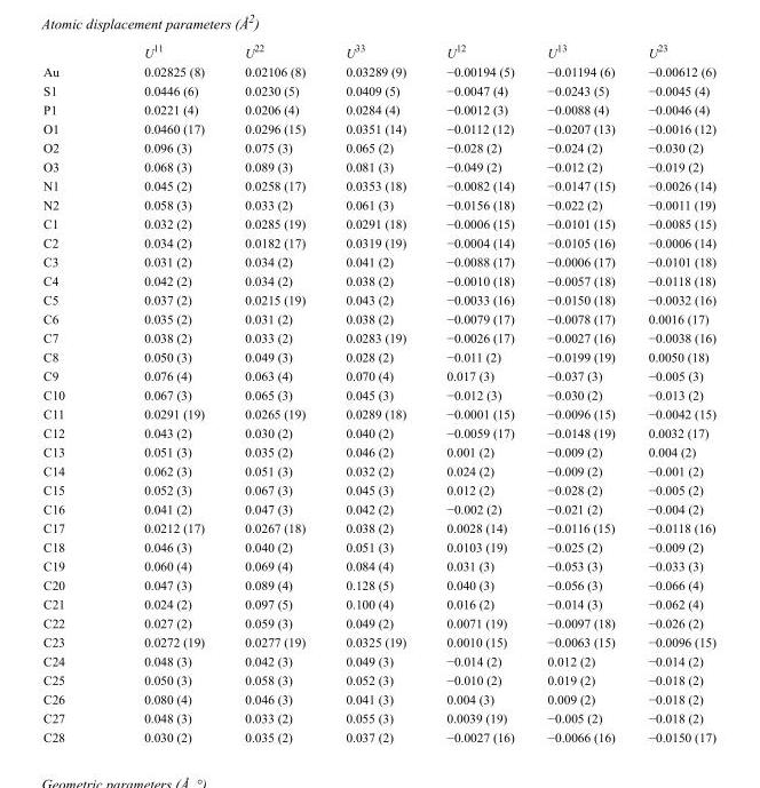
<table><thead><tr><td></td><td>U<sup>11</sup></td><td>U<sup>22</sup></td><td>U<sup>33</sup></td><td>U<sup>12</sup></td><td>U<sup>13</sup></td><td>U<sup>23</sup></td></tr></thead><tbody><tr><td>Au</td><td>0.02825 (8)</td><td>0.02106 (8)</td><td>0.03289 (9)</td><td>−0.00194 (5)</td><td>−0.01194 (6)</td><td>−0.00612 (6)</td></tr><tr><td>S1</td><td>0.0446 (6)</td><td>0.0230 (5)</td><td>0.0409 (5)</td><td>−0.0047 (4)</td><td>−0.0243 (5)</td><td>−0.0045 (4)</td></tr><tr><td>P1</td><td>0.0221 (4)</td><td>0.0206 (4)</td><td>0.0284 (4)</td><td>−0.0012 (3)</td><td>−0.0088 (4)</td><td>−0.0046 (4)</td></tr><tr><td>O1</td><td>0.0460 (17)</td><td>0.0296 (15)</td><td>0.0351 (14)</td><td>−0.0112 (12)</td><td>−0.0207 (13)</td><td>−0.0016 (12)</td></tr><tr><td>O2</td><td>0.096 (3)</td><td>0.075 (3)</td><td>0.065 (2)</td><td>−0.028 (2)</td><td>−0.024 (2)</td><td>−0.030 (2)</td></tr><tr><td>O3</td><td>0.068 (3)</td><td>0.089 (3)</td><td>0.081 (3)</td><td>−0.049 (2)</td><td>−0.012 (2)</td><td>−0.019 (2)</td></tr><tr><td>N1</td><td>0.045 (2)</td><td>0.0258 (17)</td><td>0.0353 (18)</td><td>−0.0082 (14)</td><td>−0.0147 (15)</td><td>−0.0026 (14)</td></tr><tr><td>N2</td><td>0.058 (3)</td><td>0.033 (2)</td><td>0.061 (3)</td><td>−0.0156 (18)</td><td>−0.022 (2)</td><td>−0.0011 (19)</td></tr><tr><td>C1</td><td>0.032 (2)</td><td>0.0285 (19)</td><td>0.0291 (18)</td><td>−0.0006 (15)</td><td>−0.0101 (15)</td><td>−0.0085 (15)</td></tr><tr><td>C2</td><td>0.034 (2)</td><td>0.0182 (17)</td><td>0.0319 (19)</td><td>−0.0004 (14)</td><td>−0.0105 (16)</td><td>−0.0006 (14)</td></tr><tr><td>C3</td><td>0.031 (2)</td><td>0.034 (2)</td><td>0.041 (2)</td><td>−0.0088 (17)</td><td>−0.0006 (17)</td><td>−0.0101 (18)</td></tr><tr><td>C4</td><td>0.042 (2)</td><td>0.034 (2)</td><td>0.038 (2)</td><td>−0.0010 (18)</td><td>−0.0057 (18)</td><td>−0.0118 (18)</td></tr><tr><td>C5</td><td>0.037 (2)</td><td>0.0215 (19)</td><td>0.043 (2)</td><td>−0.0033 (16)</td><td>−0.0150 (18)</td><td>−0.0032 (16)</td></tr><tr><td>C6</td><td>0.035 (2)</td><td>0.031 (2)</td><td>0.038 (2)</td><td>−0.0079 (17)</td><td>−0.0078 (17)</td><td>0.0016 (17)</td></tr><tr><td>C7</td><td>0.038 (2)</td><td>0.033 (2)</td><td>0.0283 (19)</td><td>−0.0026 (17)</td><td>−0.0027 (16)</td><td>−0.0038 (16)</td></tr><tr><td>C8</td><td>0.050 (3)</td><td>0.049 (3)</td><td>0.028 (2)</td><td>−0.011 (2)</td><td>−0.0199 (19)</td><td>0.0050 (18)</td></tr><tr><td>C9</td><td>0.076 (4)</td><td>0.063 (4)</td><td>0.070 (4)</td><td>0.017 (3)</td><td>−0.037 (3)</td><td>−0.005 (3)</td></tr><tr><td>C10</td><td>0.067 (3)</td><td>0.065 (3)</td><td>0.045 (3)</td><td>−0.012 (3)</td><td>−0.030 (2)</td><td>−0.013 (2)</td></tr><tr><td>C11</td><td>0.0291 (19)</td><td>0.0265 (19)</td><td>0.0289 (18)</td><td>−0.0001 (15)</td><td>−0.0096 (15)</td><td>−0.0042 (15)</td></tr><tr><td>C12</td><td>0.043 (2)</td><td>0.030 (2)</td><td>0.040 (2)</td><td>−0.0059 (17)</td><td>−0.0148 (19)</td><td>0.0032 (17)</td></tr><tr><td>C13</td><td>0.051 (3)</td><td>0.035 (2)</td><td>0.046 (2)</td><td>0.001 (2)</td><td>−0.009 (2)</td><td>0.004 (2)</td></tr><tr><td>C14</td><td>0.062 (3)</td><td>0.051 (3)</td><td>0.032 (2)</td><td>0.024 (2)</td><td>−0.009 (2)</td><td>−0.001 (2)</td></tr><tr><td>C15</td><td>0.052 (3)</td><td>0.067 (3)</td><td>0.045 (3)</td><td>0.012 (2)</td><td>−0.028 (2)</td><td>−0.005 (2)</td></tr><tr><td>C16</td><td>0.041 (2)</td><td>0.047 (3)</td><td>0.042 (2)</td><td>−0.002 (2)</td><td>−0.021 (2)</td><td>−0.004 (2)</td></tr><tr><td>C17</td><td>0.0212 (17)</td><td>0.0267 (18)</td><td>0.038 (2)</td><td>0.0028 (14)</td><td>−0.0116 (15)</td><td>−0.0118 (16)</td></tr><tr><td>C18</td><td>0.046 (3)</td><td>0.040 (2)</td><td>0.051 (3)</td><td>0.0103 (19)</td><td>−0.025 (2)</td><td>−0.009 (2)</td></tr><tr><td>C19</td><td>0.060 (4)</td><td>0.069 (4)</td><td>0.084 (4)</td><td>0.031 (3)</td><td>−0.053 (3)</td><td>−0.033 (3)</td></tr><tr><td>C20</td><td>0.047 (3)</td><td>0.089 (4)</td><td>0.128 (5)</td><td>0.040 (3)</td><td>−0.056 (3)</td><td>−0.066 (4)</td></tr><tr><td>C21</td><td>0.024 (2)</td><td>0.097 (5)</td><td>0.100 (4)</td><td>0.016 (2)</td><td>−0.014 (3)</td><td>−0.062 (4)</td></tr><tr><td>C22</td><td>0.027 (2)</td><td>0.059 (3)</td><td>0.049 (2)</td><td>0.0071 (19)</td><td>−0.0097 (18)</td><td>−0.026 (2)</td></tr><tr><td>C23</td><td>0.0272 (19)</td><td>0.0277 (19)</td><td>0.0325 (19)</td><td>0.0010 (15)</td><td>−0.0063 (15)</td><td>−0.0096 (15)</td></tr><tr><td>C24</td><td>0.048 (3)</td><td>0.042 (3)</td><td>0.049 (3)</td><td>−0.014 (2)</td><td>0.012 (2)</td><td>−0.014 (2)</td></tr><tr><td>C25</td><td>0.050 (3)</td><td>0.058 (3)</td><td>0.052 (3)</td><td>−0.010 (2)</td><td>0.019 (2)</td><td>−0.018 (2)</td></tr><tr><td>C26</td><td>0.080 (4)</td><td>0.046 (3)</td><td>0.041 (3)</td><td>0.004 (3)</td><td>0.009 (2)</td><td>−0.018 (2)</td></tr><tr><td>C27</td><td>0.048 (3)</td><td>0.033 (2)</td><td>0.055 (3)</td><td>0.0039 (19)</td><td>−0.005 (2)</td><td>−0.018 (2)</td></tr><tr><td>C28</td><td>0.030 (2)</td><td>0.035 (2)</td><td>0.037 (2)</td><td>−0.0027 (16)</td><td>−0.0066 (16)</td><td>−0.0150 (17)</td></tr></tbody></table>